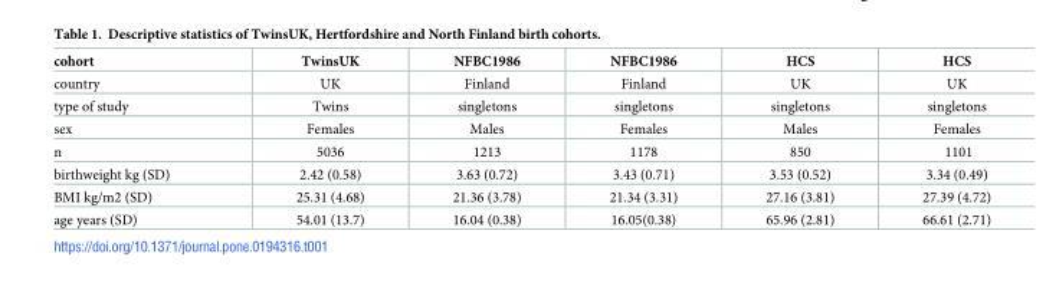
<table><thead><tr><td>cohort</td><td>TwinsUK</td><td>NFBC1986</td><td>NFBC1986</td><td>HCS</td><td>HCS</td></tr></thead><tbody><tr><td>country</td><td>UK</td><td>Finland</td><td>Finland</td><td>UK</td><td>UK</td></tr><tr><td>type of study</td><td>Twins</td><td>singletons</td><td>singletons</td><td>singletons</td><td>singletons</td></tr><tr><td>sex</td><td>Females</td><td>Males</td><td>Females</td><td>Males</td><td>Females</td></tr><tr><td>n</td><td>5036</td><td>1213</td><td>1178</td><td>850</td><td>1101</td></tr><tr><td>birthweight kg (SD)</td><td>2.42 (0.58)</td><td>3.63 (0.72)</td><td>3.43 (0.71)</td><td>3.53 (0.52)</td><td>3.34 (0.49)</td></tr><tr><td>BMI kg/m2 (SD)</td><td>25.31 (4.68)</td><td>21.36 (3.78)</td><td>21.34 (3.31)</td><td>27.16 (3.81)</td><td>27.39 (4.72)</td></tr><tr><td>age years (SD)</td><td>54.01 (13.7)</td><td>16.04 (0.38)</td><td>16.05(0.38)</td><td>65.96 (2.81)</td><td>66.61 (2.71)</td></tr></tbody></table>